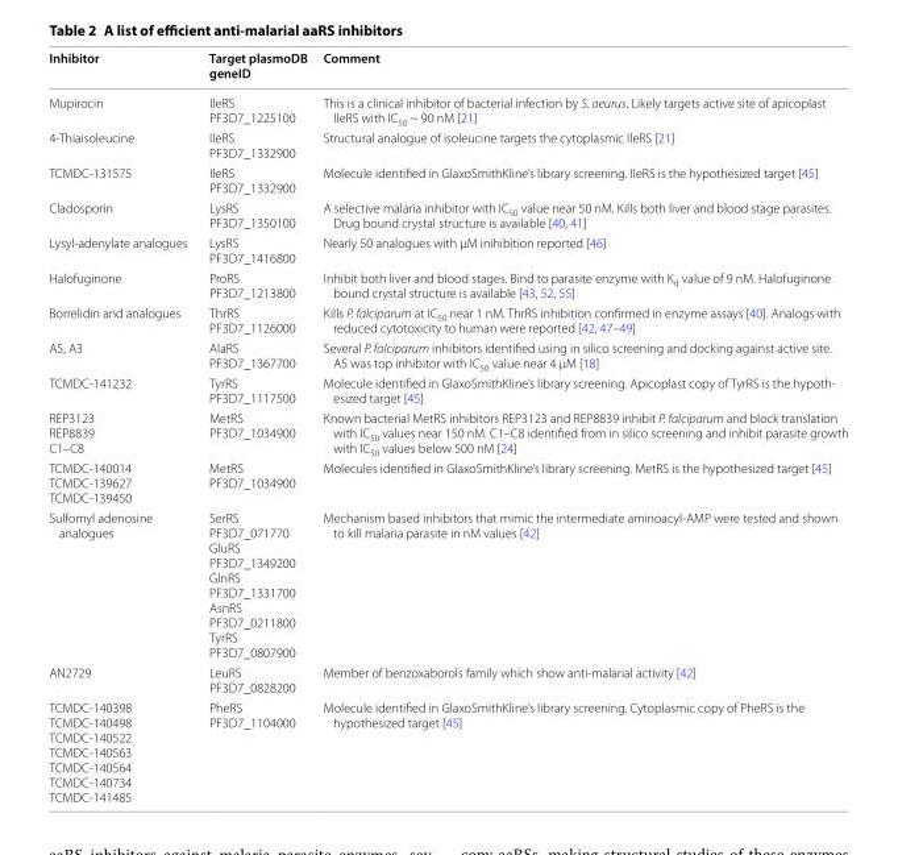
<table><thead><tr><td>Inhibitor</td><td>Target plasmoDB geneID</td><td>Comment</td></tr></thead><tbody><tr><td>Mupirocin</td><td>IleRS PF3D7_1225100</td><td>This is a clinical inhibitor of bacterial infection by S. aeurus. Likely targets active site of apicoplast IleRS with IC<sub>50</sub> ~ 90 nM [21]</td></tr><tr><td>4-Thiaisoleucine</td><td>IleRS PF3D7_1332900</td><td>Structural analogue of isoleucine targets the cytoplasmic IleRS [21]</td></tr><tr><td>TCMDC-131575</td><td>IleRS PF3D7_1332900</td><td>Molecule identified in GlaxoSmithKline’s library screening. IleRS is the hypothesized target [45]</td></tr><tr><td>Cladosporin</td><td>LysRS PF3D7_1350100</td><td>A selective malaria inhibitor with IC<sub>50</sub> value near 50 nM. Kills both liver and blood stage parasites. Drug bound crystal structure is available [40, 41]</td></tr><tr><td>Lysyl-adenylate analogues</td><td>LysRS PF3D7_1416800</td><td>Nearly 50 analogues with μM inihibition reported [46]</td></tr><tr><td>Halofuginone</td><td>ProRS PF3D7_1213800</td><td>Inhibit both liver and blood stages. Bind to parasite enzyme with K<sub>d</sub> value of 9 nM. Halofuginone bound crystal structure is available [43, 52, 55]</td></tr><tr><td>Borrelidin and analogues</td><td>ThrRS PF3D7_1126000</td><td>Kills P. falciparum at IC<sub>50</sub> near 1 nM. ThrRS inhibition confirmed in enzyme assays [40]. Analogs with reduced cytotoxicity to human were reported [42, 47–49]</td></tr><tr><td>A5, A3</td><td>AlaRS PF3D7_1367700</td><td>Several P. falciparum inhibitors identified using in silico screening and docking against active site. A5 was top inhibitor with IC<sub>50</sub> value near 4 μM [18]</td></tr><tr><td>TCMDC-141232</td><td>TyrRS PF3D7_1117500</td><td>Molecule identified in GlaxoSmithKline’s library screening. Apicoplast copy of TyrRS is the hypoth- esized target [45]</td></tr><tr><td>REP3123 REP8839 C1–C8</td><td>MetRS PF3D7_1034900</td><td>Known bacterial MetRS inhibitors REP3123 and REP8839 inhibit P. falciparum and block translation with IC<sub>50</sub> values near 150 nM. C1–C8 identified from in silico screening and inhibit parasite growth with IC<sub>50</sub> values below 500 nM [24]</td></tr><tr><td>TCMDC-140014 TCMDC-139627 TCMDC-139450</td><td>MetRS PF3D7_1034900</td><td>Molecules identified in GlaxoSmithKline’s library screening. MetRS is the hypothesized target [45]</td></tr><tr><td>Sulfomyl adenosine analogues</td><td>SerRS PF3D7_071770 GluRS PF3D7_1349200 GlnRS PF3D7_1331700 AsnRS PF3D7_0211800 TyrRS PF3D7_0807900</td><td>Mechanism based inhibitors that mimic the intermediate aminoacyl-AMP were tested and shown to kill malaria parasite in nM values [42]</td></tr><tr><td>AN2729</td><td>LeuRS PF3D7_0828200</td><td>Member of benzoxaborols family which show anti-malarial activity [42]</td></tr><tr><td>TCMDC-140398 TCMDC-140498 TCMDC-140522 TCMDC-140563 TCMDC-140564 TCMDC-140734 TCMDC-141485</td><td>PheRS PF3D7_1104000</td><td>Molecule identified in GlaxoSmithKline’s library screening. Cytoplasmic copy of PheRS is the hypothesized target [45]</td></tr></tbody></table>